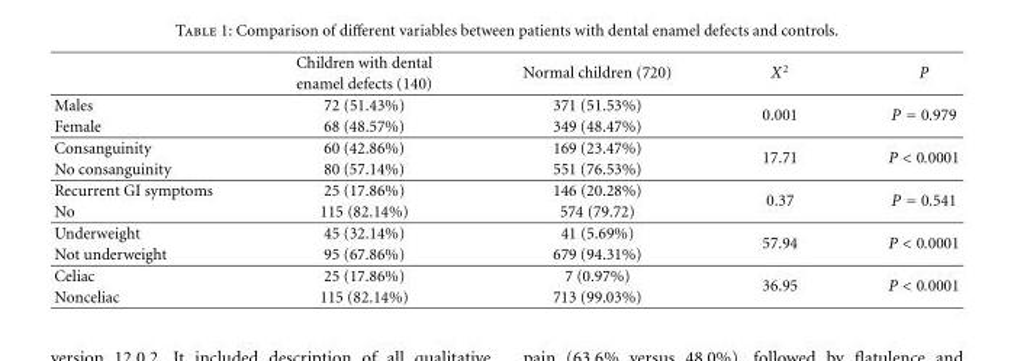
<table><thead><tr><td rowspan="2"></td><td rowspan="2">Children with dental enamel defects (140)</td><td rowspan="2">Normal children (720)</td><td rowspan="2">X<sup>2</sup></td><td rowspan="2">P</td></tr><tr></tr></thead><tbody><tr><td>Males</td><td>72 (51.43%)</td><td>371 (51.53%)</td><td rowspan="2">0.001</td><td rowspan="2">P = 0.979</td></tr><tr><td>Female</td><td>68 (48.57%)</td><td>349 (48.47%)</td></tr><tr><td>Consanguinity</td><td>60 (42.86%)</td><td>169 (23.47%)</td><td rowspan="2">17.71</td><td rowspan="2">P &lt; 0.0001</td></tr><tr><td>No consanguinity</td><td>80 (57.14%)</td><td>551 (76.53%)</td></tr><tr><td>Recurrent GI symptoms</td><td>25 (17.86%)</td><td>146 (20.28%)</td><td rowspan="2">0.37</td><td rowspan="2">P = 0.541</td></tr><tr><td>No</td><td>115 (82.14%)</td><td>574 (79.72)</td></tr><tr><td>Underweight</td><td>45 (32.14%)</td><td>41 (5.69%)</td><td rowspan="2">57.94</td><td rowspan="2">P &lt; 0.0001</td></tr><tr><td>Not underweight</td><td>95 (67.86%)</td><td>679 (94.31%)</td></tr><tr><td>Celiac</td><td>25 (17.86%)</td><td>7 (0.97%)</td><td rowspan="2">36.95</td><td rowspan="2">P &lt; 0.0001</td></tr><tr><td>Nonceliac</td><td>115 (82.14%)</td><td>713 (99.03%)</td></tr></tbody></table>